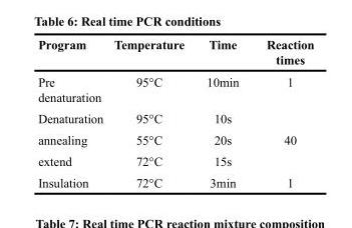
<table><thead><tr><td>Program</td><td>Temperature</td><td>Time</td><td>Reaction times</td></tr></thead><tbody><tr><td>Pre denaturation</td><td>95°C</td><td>10min</td><td>1</td></tr><tr><td>Denaturation</td><td>95°C</td><td>10s</td><td></td></tr><tr><td>annealing</td><td>55°C</td><td>20s</td><td>40</td></tr><tr><td>extend</td><td>72°C</td><td>15s</td><td></td></tr><tr><td>Insulation</td><td>72°C</td><td>3min</td><td>1</td></tr></tbody></table>